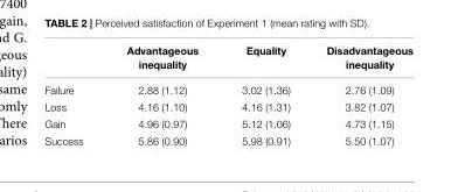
<table><thead><tr><td></td><td>Advantageous inequality</td><td>Equality</td><td>Disadvantageous inequality</td></tr></thead><tbody><tr><td>Failure</td><td>2.88 (1.12)</td><td>3.02 (1.36)</td><td>2.76 (1.09)</td></tr><tr><td>Loss</td><td>4.16 (1.10)</td><td>4.16 (1.31)</td><td>3.82 (1.07)</td></tr><tr><td>Gain</td><td>4.96 (0.97)</td><td>5.12 (1.06)</td><td>4.73 (1.15)</td></tr><tr><td>Success</td><td>5.86 (0.90)</td><td>5.98 (0.91)</td><td>5.50 (1.07)</td></tr></tbody></table>